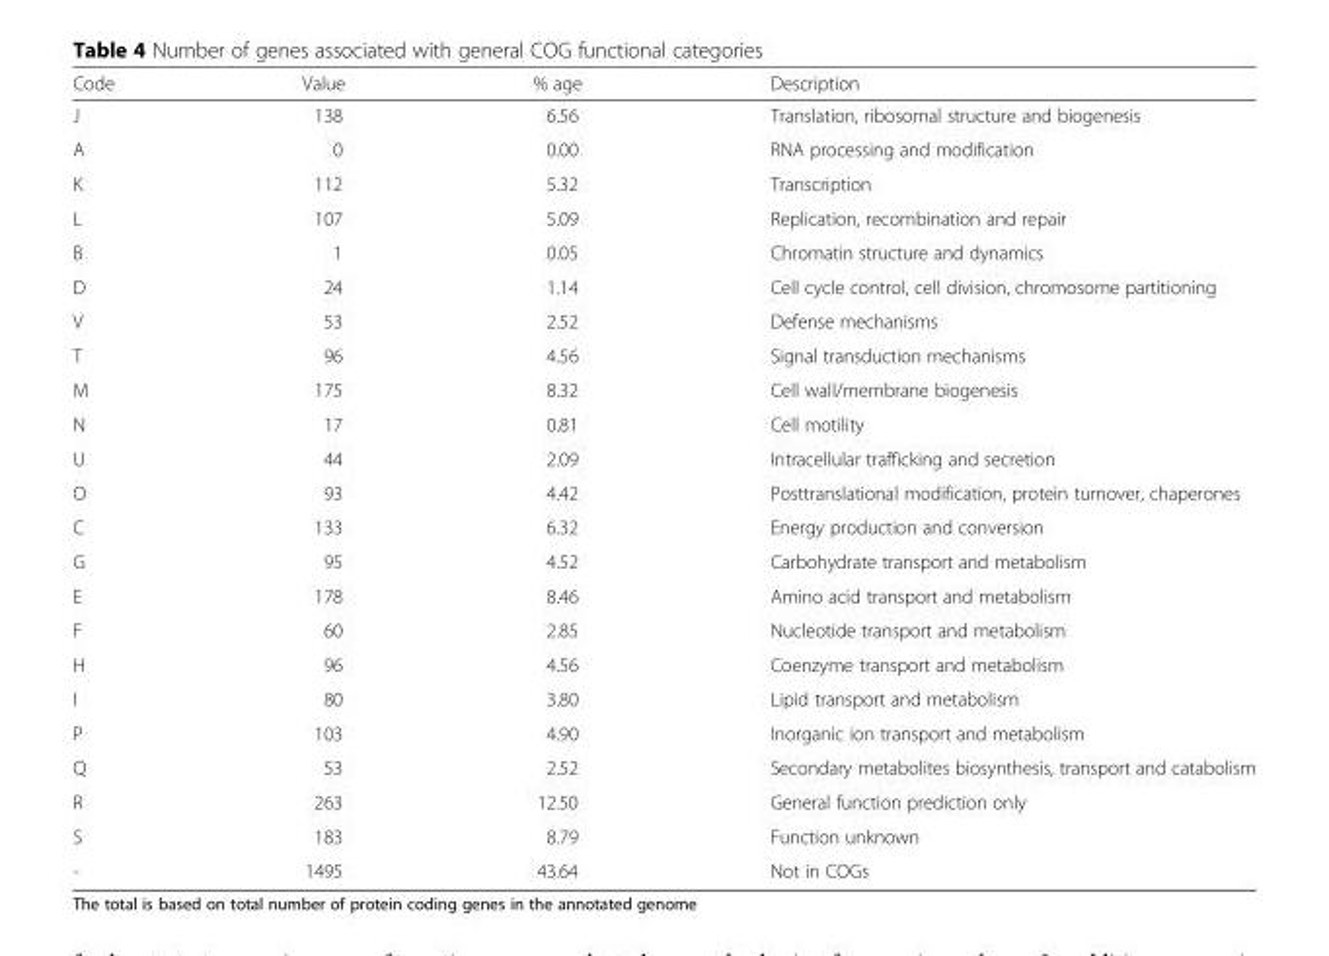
<table><thead><tr><td>Code</td><td>Value</td><td>% age</td><td>Description</td></tr></thead><tbody><tr><td>J</td><td>138</td><td>6.56</td><td>Translation, ribosomal structure and biogenesis</td></tr><tr><td>A</td><td>0</td><td>0.00</td><td>RNA processing and modification</td></tr><tr><td>K</td><td>112</td><td>5.32</td><td>Transcription</td></tr><tr><td>L</td><td>107</td><td>5.09</td><td>Replication, recombination and repair</td></tr><tr><td>B</td><td>1</td><td>0.05</td><td>Chromatin structure and dynamics</td></tr><tr><td>D</td><td>24</td><td>1.14</td><td>Cell cycle control, cell division, chromosome partitioning</td></tr><tr><td>V</td><td>53</td><td>2.52</td><td>Defense mechanisms</td></tr><tr><td>T</td><td>96</td><td>4.56</td><td>Signal transduction mechanisms</td></tr><tr><td>M</td><td>175</td><td>8.32</td><td>Cell wall/membrane biogenesis</td></tr><tr><td>N</td><td>17</td><td>0.81</td><td>Cell motility</td></tr><tr><td>U</td><td>44</td><td>2.09</td><td>Intracellular trafficking and secretion</td></tr><tr><td>O</td><td>93</td><td>4.42</td><td>Posttranslational modification, protein turnover, chaperones</td></tr><tr><td>C</td><td>133</td><td>6.32</td><td>Energy production and conversion</td></tr><tr><td>G</td><td>95</td><td>4.52</td><td>Carbohydrate transport and metabolism</td></tr><tr><td>E</td><td>178</td><td>8.46</td><td>Amino acid transport and metabolism</td></tr><tr><td>F</td><td>60</td><td>2.85</td><td>Nucleotide transport and metabolism</td></tr><tr><td>H</td><td>96</td><td>4.56</td><td>Coenzyme transport and metabolism</td></tr><tr><td>I</td><td>80</td><td>3.80</td><td>Lipid transport and metabolism</td></tr><tr><td>P</td><td>103</td><td>4.90</td><td>Inorganic ion transport and metabolism</td></tr><tr><td>Q</td><td>53</td><td>2.52</td><td>Secondary metabolites biosynthesis, transport and catabolism</td></tr><tr><td>R</td><td>263</td><td>12.50</td><td>General function prediction only</td></tr><tr><td>S</td><td>183</td><td>8.79</td><td>Function unknown</td></tr><tr><td>-</td><td>1495</td><td>43.64</td><td>Not in COGs</td></tr></tbody></table>